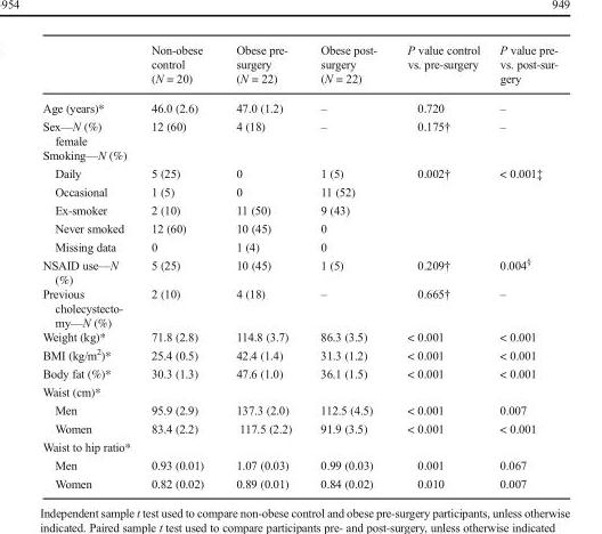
<table><thead><tr><td></td><td>Non-obese control (N = 20)</td><td>Obese pre- surgery (N = 22)</td><td>Obese post- surgery (N = 22)</td><td>P value control vs. pre-surgery</td><td>P value pre- vs. post-sur- gery</td></tr></thead><tbody><tr><td>Age (years)*</td><td>46.0 (2.6)</td><td>47.0 (1.2)</td><td>–</td><td>0.720</td><td>–</td></tr><tr><td>Sex—N (%) female</td><td>12 (60)</td><td>4 (18)</td><td>–</td><td>0.175†</td><td>–</td></tr><tr><td colspan="6">Smoking—N (%)</td></tr><tr><td>Daily</td><td>5 (25)</td><td>0</td><td>1 (5)</td><td>0.002†</td><td>&lt; 0.001‡</td></tr><tr><td>Occasional</td><td>1 (5)</td><td>0</td><td>11 (52)</td><td></td><td></td></tr><tr><td>Ex-smoker</td><td>2 (10)</td><td>11 (50)</td><td>9 (43)</td><td></td><td></td></tr><tr><td>Never smoked</td><td>12 (60)</td><td>10 (45)</td><td>0</td><td></td><td></td></tr><tr><td>Missing data</td><td>0</td><td>1 (4)</td><td>0</td><td></td><td></td></tr><tr><td>NSAID use—N (%)</td><td>5 (25)</td><td>10 (45)</td><td>1 (5)</td><td>0.209†</td><td>0.004<sup>§</sup></td></tr><tr><td>Previous cholecystecto- my—N (%)</td><td>2 (10)</td><td>4 (18)</td><td>–</td><td>0.665†</td><td>–</td></tr><tr><td>Weight (kg)*</td><td>71.8 (2.8)</td><td>114.8 (3.7)</td><td>86.3 (3.5)</td><td>&lt; 0.001</td><td>&lt; 0.001</td></tr><tr><td>BMI (kg/m<sup>2</sup>)*</td><td>25.4 (0.5)</td><td>42.4 (1.4)</td><td>31.3 (1.2)</td><td>&lt; 0.001</td><td>&lt; 0.001</td></tr><tr><td>Body fat (%)*</td><td>30.3 (1.3)</td><td>47.6 (1.0)</td><td>36.1 (1.5)</td><td>&lt; 0.001</td><td>&lt; 0.001</td></tr><tr><td colspan="6">Waist (cm)*</td></tr><tr><td>Men</td><td>95.9 (2.9)</td><td>137.3 (2.0)</td><td>112.5 (4.5)</td><td>&lt; 0.001</td><td>0.007</td></tr><tr><td>Women</td><td>83.4 (2.2)</td><td>117.5 (2.2)</td><td>91.9 (3.5)</td><td>&lt; 0.001</td><td>&lt; 0.001</td></tr><tr><td colspan="6">Waist to hip ratio*</td></tr><tr><td>Men</td><td>0.93 (0.01)</td><td>1.07 (0.03)</td><td>0.99 (0.03)</td><td>0.001</td><td>0.067</td></tr><tr><td>Women</td><td>0.82 (0.02)</td><td>0.89 (0.01)</td><td>0.84 (0.02)</td><td>0.010</td><td>0.007</td></tr></tbody></table>